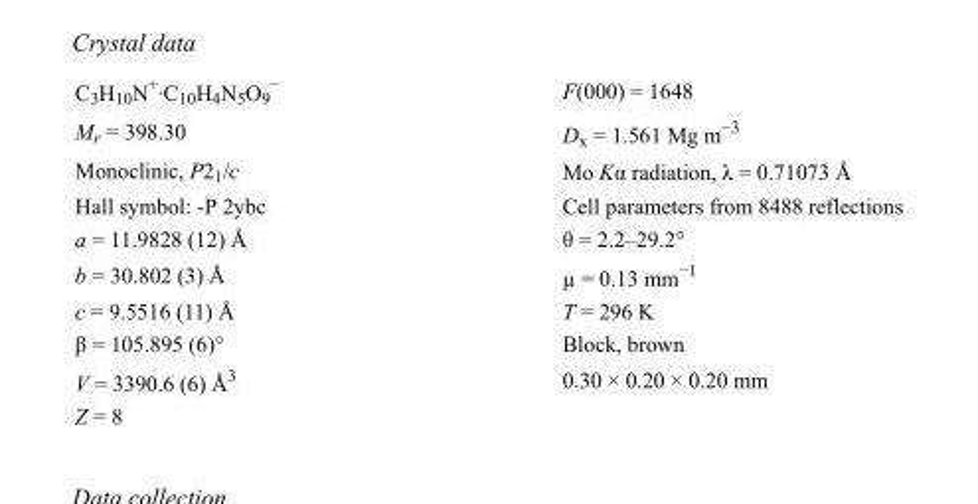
<table><tbody><tr><td>C<sub>3</sub>H<sub>10</sub>N<sup>+</sup>·C<sub>10</sub>H<sub>4</sub>N<sub>5</sub>O<sub>9</sub> <sup>−</sup></td><td>F(000) = 1648</td></tr><tr><td>M<sub>r</sub> = 398.30</td><td>D<sub>x</sub> = 1.561 Mg m<sup>−3</sup></td></tr><tr><td>Monoclinic, P2<sub>1</sub>/c</td><td>Mo Kα radiation, λ = 0.71073 Å</td></tr><tr><td>Hall symbol: -P 2ybc</td><td>Cell parameters from 8488 reflections</td></tr><tr><td>a = 11.9828 (12) Å</td><td>θ = 2.2–29.2°</td></tr><tr><td>b = 30.802 (3) Å</td><td>µ = 0.13 mm<sup>−1</sup></td></tr><tr><td>c = 9.5516 (11) Å</td><td>T = 296 K</td></tr><tr><td>β = 105.895 (6)°</td><td>Block, brown</td></tr><tr><td>V = 3390.6 (6) Å<sup>3</sup></td><td>0.30 × 0.20 × 0.20 mm</td></tr><tr><td>Z = 8</td><td></td></tr></tbody></table>